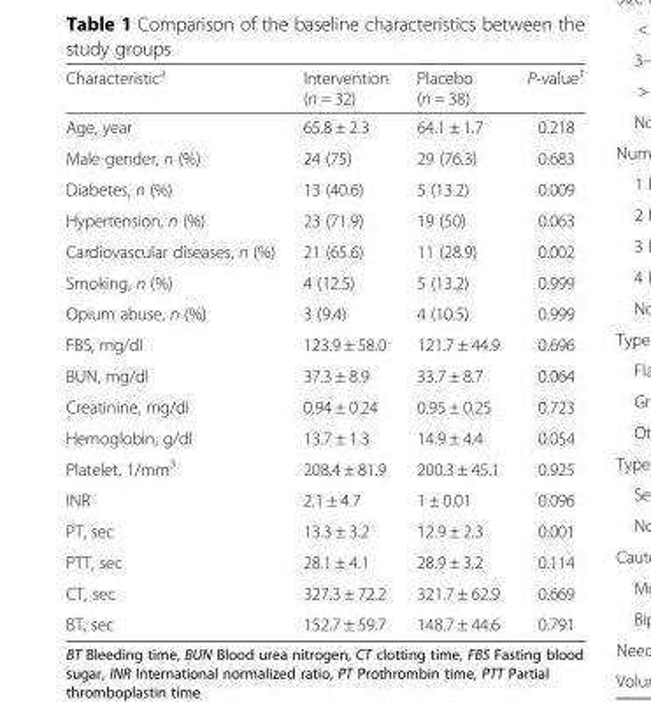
<table><thead><tr><td>Characteristic<sup>a</sup></td><td>Intervention (n = 32)</td><td>Placebo (n = 38)</td><td>P-value<sup>†</sup></td></tr></thead><tbody><tr><td>Age, year</td><td>65.8 ± 2.3</td><td>64.1 ± 1.7</td><td>0.218</td></tr><tr><td>Male gender, n (%)</td><td>24 (75)</td><td>29 (76.3)</td><td>0.683</td></tr><tr><td>Diabetes, n (%)</td><td>13 (40.6)</td><td>5 (13.2)</td><td>0.009</td></tr><tr><td>Hypertension, n (%)</td><td>23 (71.9)</td><td>19 (50)</td><td>0.063</td></tr><tr><td>Cardiovascular diseases, n (%)</td><td>21 (65.6)</td><td>11 (28.9)</td><td>0.002</td></tr><tr><td>Smoking, n (%)</td><td>4 (12.5)</td><td>5 (13.2)</td><td>0.999</td></tr><tr><td>Opium abuse, n (%)</td><td>3 (9.4)</td><td>4 (10.5)</td><td>0.999</td></tr><tr><td>FBS, mg/dl</td><td>123.9 ± 58.0</td><td>121.7 ± 44.9</td><td>0.696</td></tr><tr><td>BUN, mg/dl</td><td>37.3 ± 8.9</td><td>33.7 ± 8.7</td><td>0.064</td></tr><tr><td>Creatinine, mg/dl</td><td>0.94 ± 0.24</td><td>0.95 ± 0.25</td><td>0.723</td></tr><tr><td>Hemoglobin, g/dl</td><td>13.7 ± 1.3</td><td>14.9 ± 4.4</td><td>0.054</td></tr><tr><td>Platelet, 1/mm<sup>3</sup></td><td>208.4 ± 81.9</td><td>200.3 ± 45.1</td><td>0.925</td></tr><tr><td>INR</td><td>2.1 ± 4.7</td><td>1 ± 0.01</td><td>0.096</td></tr><tr><td>PT, sec</td><td>13.3 ± 3.2</td><td>12.9 ± 2.3</td><td>0.001</td></tr><tr><td>PTT, sec</td><td>28.1 ± 4.1</td><td>28.9 ± 3.2</td><td>0.114</td></tr><tr><td>CT, sec</td><td>327.3 ± 72.2</td><td>321.7 ± 62.9</td><td>0.669</td></tr><tr><td>BT, sec</td><td>152.7 ± 59.7</td><td>148.7 ± 44.6</td><td>0.791</td></tr></tbody></table>